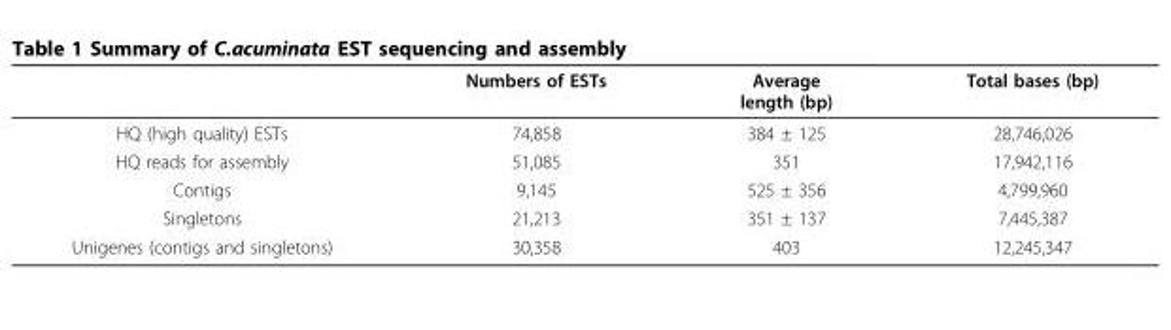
<table><thead><tr><td></td><td>Numbers of ESTs</td><td>Average length (bp)</td><td>Total bases (bp)</td></tr></thead><tbody><tr><td>HQ (high quality) ESTs</td><td>74,858</td><td>384 ± 125</td><td>28,746,026</td></tr><tr><td>HQ reads for assembly</td><td>51,085</td><td>351</td><td>17,942,116</td></tr><tr><td>Contigs</td><td>9,145</td><td>525 ± 356</td><td>4,799,960</td></tr><tr><td>Singletons</td><td>21,213</td><td>351 ± 137</td><td>7,445,387</td></tr><tr><td>Unigenes (contigs and singletons)</td><td>30,358</td><td>403</td><td>12,245,347</td></tr></tbody></table>